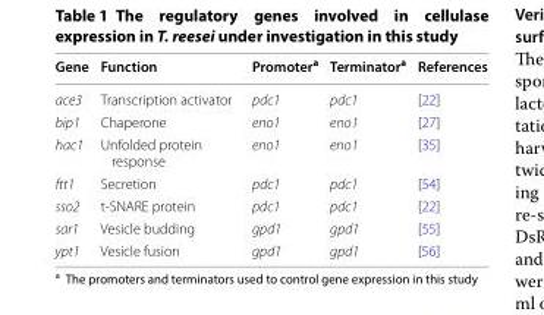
<table><thead><tr><td>Gene</td><td>Function</td><td>Promoter<sup>a</sup></td><td>Terminator<sup>a</sup></td><td>References</td></tr></thead><tbody><tr><td>ace3</td><td>Transcription activator</td><td>pdc1</td><td>pdc1</td><td>[22]</td></tr><tr><td>bip1</td><td>Chaperone</td><td>eno1</td><td>eno1</td><td>[27]</td></tr><tr><td>hac1</td><td>Unfolded protein response</td><td>eno1</td><td>eno1</td><td>[35]</td></tr><tr><td>ftt1</td><td>Secretion</td><td>pdc1</td><td>pdc1</td><td>[54]</td></tr><tr><td>sso2</td><td>t-SNARE protein</td><td>pdc1</td><td>pdc1</td><td>[22]</td></tr><tr><td>sar1</td><td>Vesicle budding</td><td>gpd1</td><td>gpd1</td><td>[55]</td></tr><tr><td>ypt1</td><td>Vesicle fusion</td><td>gpd1</td><td>gpd1</td><td>[56]</td></tr></tbody></table>